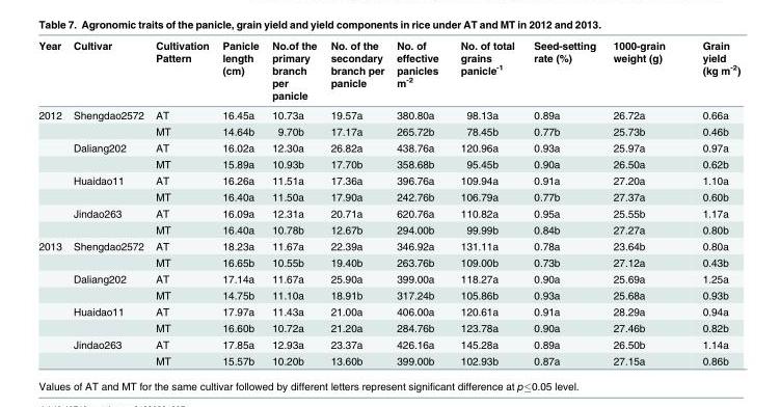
<table><thead><tr><td>Year</td><td>Cultivar</td><td>Cultivation Pattern</td><td>Panicle length (cm)</td><td>No.of the primary branch per panicle</td><td>No. of the secondary branch per panicle</td><td>No. of effective panicles m<sup>-2</sup></td><td>No. of total grains panicle<sup>-1</sup></td><td>Seed-setting rate (%)</td><td>1000-grain weight (g)</td><td>Grain yield (kg m<sup>-2</sup>)</td></tr></thead><tbody><tr><td rowspan="8">2012</td><td>Shengdao2572</td><td>AT</td><td>16.45a</td><td>10.73a</td><td>19.57a</td><td>380.80a</td><td>98.13a</td><td>0.89a</td><td>26.72a</td><td>0.66a</td></tr><tr><td></td><td>MT</td><td>14.64b</td><td>9.70b</td><td>17.17a</td><td>265.72b</td><td>78.45b</td><td>0.77b</td><td>25.73b</td><td>0.46b</td></tr><tr><td>Daliang202</td><td>AT</td><td>16.02a</td><td>12.30a</td><td>26.82a</td><td>438.76a</td><td>120.96a</td><td>0.93a</td><td>25.97a</td><td>0.97a</td></tr><tr><td></td><td>MT</td><td>15.89a</td><td>10.93b</td><td>17.70b</td><td>358.68b</td><td>95.45b</td><td>0.90a</td><td>26.50a</td><td>0.62b</td></tr><tr><td>Huaidao11</td><td>AT</td><td>16.26a</td><td>11.51a</td><td>17.36a</td><td>396.76a</td><td>109.94a</td><td>0.91a</td><td>27.20a</td><td>1.10a</td></tr><tr><td></td><td>MT</td><td>16.40a</td><td>11.50a</td><td>17.90a</td><td>242.76b</td><td>106.79a</td><td>0.77b</td><td>27.37a</td><td>0.60b</td></tr><tr><td>Jindao263</td><td>AT</td><td>16.09a</td><td>12.31a</td><td>20.71a</td><td>620.76a</td><td>110.82a</td><td>0.95a</td><td>25.55b</td><td>1.17a</td></tr><tr><td></td><td>MT</td><td>16.40a</td><td>10.78b</td><td>12.67b</td><td>294.00b</td><td>99.99b</td><td>0.84b</td><td>27.27a</td><td>0.80b</td></tr><tr><td rowspan="8">2013</td><td>Shengdao2572</td><td>AT</td><td>18.23a</td><td>11.67a</td><td>22.39a</td><td>346.92a</td><td>131.11a</td><td>0.78a</td><td>23.64b</td><td>0.80a</td></tr><tr><td></td><td>MT</td><td>16.65b</td><td>10.55b</td><td>19.40b</td><td>263.76b</td><td>109.00b</td><td>0.73b</td><td>27.12a</td><td>0.43b</td></tr><tr><td>Daliang202</td><td>AT</td><td>17.14a</td><td>11.67a</td><td>25.90a</td><td>399.00a</td><td>118.27a</td><td>0.90a</td><td>25.69a</td><td>1.25a</td></tr><tr><td></td><td>MT</td><td>14.75b</td><td>11.10a</td><td>18.91b</td><td>317.24b</td><td>105.86b</td><td>0.93a</td><td>25.68a</td><td>0.93b</td></tr><tr><td>Huaidao11</td><td>AT</td><td>17.97a</td><td>11.43a</td><td>21.00a</td><td>406.00a</td><td>120.61a</td><td>0.91a</td><td>28.29a</td><td>0.94a</td></tr><tr><td></td><td>MT</td><td>16.60b</td><td>10.72a</td><td>21.20a</td><td>284.76b</td><td>123.78a</td><td>0.90a</td><td>27.46b</td><td>0.82b</td></tr><tr><td>Jindao263</td><td>AT</td><td>17.85a</td><td>12.93a</td><td>23.37a</td><td>426.16a</td><td>145.28a</td><td>0.89a</td><td>26.50b</td><td>1.14a</td></tr><tr><td></td><td>MT</td><td>15.57b</td><td>10.20b</td><td>13.60b</td><td>399.00b</td><td>102.93b</td><td>0.87a</td><td>27.15a</td><td>0.86b</td></tr></tbody></table>